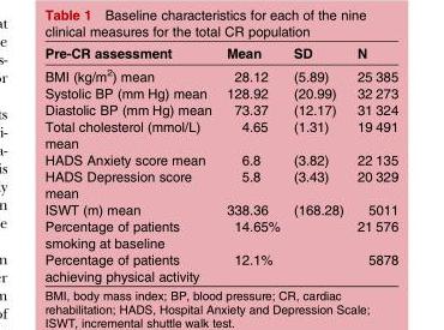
<table><thead><tr><td>Pre-CR assessment</td><td>Mean</td><td>SD</td><td>N</td></tr></thead><tbody><tr><td>BMI (kg/m<sup>2</sup>) mean</td><td>28.12</td><td>(5.89)</td><td>25 385</td></tr><tr><td>Systolic BP (mm Hg) mean</td><td>128.92</td><td>(20.99)</td><td>32 273</td></tr><tr><td>Diastolic BP (mm Hg) mean</td><td>73.37</td><td>(12.17)</td><td>31 324</td></tr><tr><td>Total cholesterol (mmol/L) mean</td><td>4.65</td><td>(1.31)</td><td>19 491</td></tr><tr><td>HADS Anxiety score mean</td><td>6.8</td><td>(3.82)</td><td>22 135</td></tr><tr><td>HADS Depression score mean</td><td>5.8</td><td>(3.43)</td><td>20 329</td></tr><tr><td>ISWT (m) mean</td><td>338.36</td><td>(168.28)</td><td>5011</td></tr><tr><td>Percentage of patients smoking at baseline</td><td>14.65%</td><td></td><td>21 576</td></tr><tr><td>Percentage of patients achieving physical activity</td><td>12.1%</td><td></td><td>5878</td></tr></tbody></table>